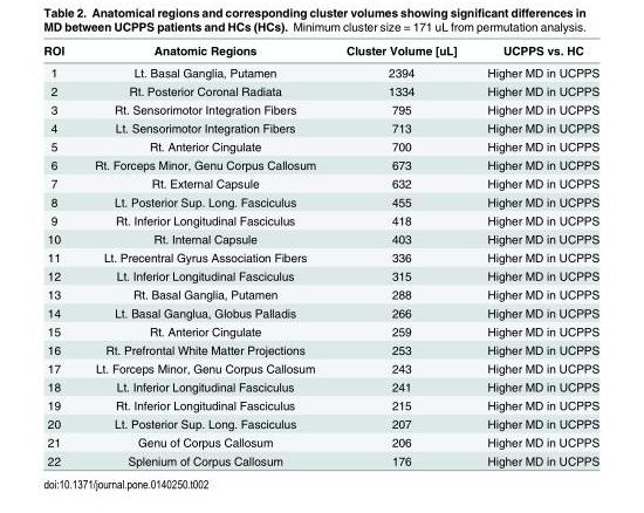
<table><thead><tr><td>ROI</td><td>Anatomic Regions</td><td>Cluster Volume [uL]</td><td>UCPPS vs. HC</td></tr></thead><tbody><tr><td>1</td><td>Lt. Basal Ganglia, Putamen</td><td>2394</td><td>Higher MD in UCPPS</td></tr><tr><td>2</td><td>Rt. Posterior Coronal Radiata</td><td>1334</td><td>Higher MD in UCPPS</td></tr><tr><td>3</td><td>Rt. Sensorimotor Integration Fibers</td><td>795</td><td>Higher MD in UCPPS</td></tr><tr><td>4</td><td>Lt. Sensorimotor Integration Fibers</td><td>713</td><td>Higher MD in UCPPS</td></tr><tr><td>5</td><td>Rt. Anterior Cingulate</td><td>700</td><td>Higher MD in UCPPS</td></tr><tr><td>6</td><td>Rt. Forceps Minor, Genu Corpus Callosum</td><td>673</td><td>Higher MD in UCPPS</td></tr><tr><td>7</td><td>Rt. External Capsule</td><td>632</td><td>Higher MD in UCPPS</td></tr><tr><td>8</td><td>Lt. Posterior Sup. Long. Fasciculus</td><td>455</td><td>Higher MD in UCPPS</td></tr><tr><td>9</td><td>Rt. Inferior Longitudinal Fasciculus</td><td>418</td><td>Higher MD in UCPPS</td></tr><tr><td>10</td><td>Rt. Internal Capsule</td><td>403</td><td>Higher MD in UCPPS</td></tr><tr><td>11</td><td>Lt. Precentral Gyrus Association Fibers</td><td>336</td><td>Higher MD in UCPPS</td></tr><tr><td>12</td><td>Lt. Inferior Longitudinal Fasciculus</td><td>315</td><td>Higher MD in UCPPS</td></tr><tr><td>13</td><td>Rt. Basal Ganglia, Putamen</td><td>288</td><td>Higher MD in UCPPS</td></tr><tr><td>14</td><td>Lt. Basal Ganglua, Globus Palladis</td><td>266</td><td>Higher MD in UCPPS</td></tr><tr><td>15</td><td>Rt. Anterior Cingulate</td><td>259</td><td>Higher MD in UCPPS</td></tr><tr><td>16</td><td>Rt. Prefrontal White Matter Projections</td><td>253</td><td>Higher MD in UCPPS</td></tr><tr><td>17</td><td>Lt. Forceps Minor, Genu Corpus Callosum</td><td>243</td><td>Higher MD in UCPPS</td></tr><tr><td>18</td><td>Lt. Inferior Longitudinal Fasciculus</td><td>241</td><td>Higher MD in UCPPS</td></tr><tr><td>19</td><td>Rt. Inferior Longitudinal Fasciculus</td><td>215</td><td>Higher MD in UCPPS</td></tr><tr><td>20</td><td>Lt. Posterior Sup. Long. Fasciculus</td><td>207</td><td>Higher MD in UCPPS</td></tr><tr><td>21</td><td>Genu of Corpus Callosum</td><td>206</td><td>Higher MD in UCPPS</td></tr><tr><td>22</td><td>Splenium of Corpus Callosum</td><td>176</td><td>Higher MD in UCPPS</td></tr></tbody></table>